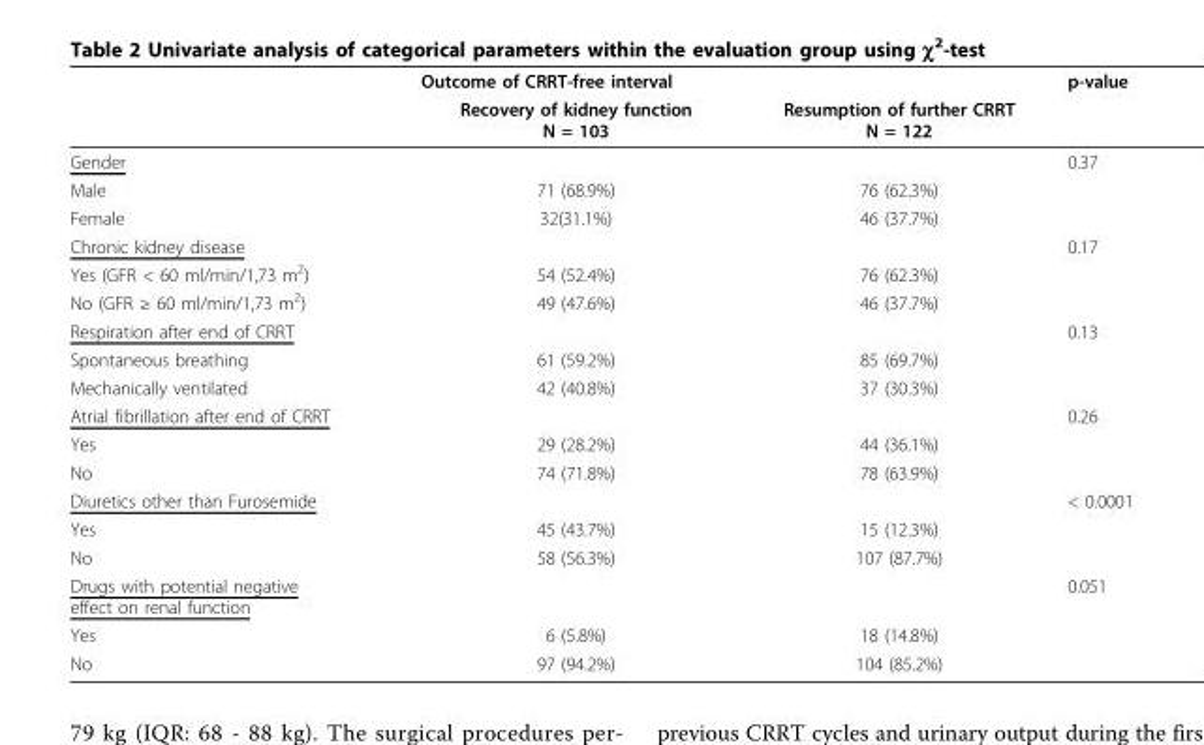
<table><thead><tr><td rowspan="2"></td><td colspan="2">Outcome of CRRT-free interval</td><td rowspan="2">p-value</td></tr><tr><td>Recovery of kidney function N = 103</td><td>Resumption of further CRRT N = 122</td></tr></thead><tbody><tr><td>Gender</td><td></td><td></td><td>0.37</td></tr><tr><td>Male</td><td>71 (68.9%)</td><td>76 (62.3%)</td><td></td></tr><tr><td>Female</td><td>32(31.1%)</td><td>46 (37.7%)</td><td></td></tr><tr><td>Chronic kidney disease</td><td></td><td></td><td>0.17</td></tr><tr><td>Yes (GFR &lt; 60 ml/min/1,73 m<sup>2</sup>)</td><td>54 (52.4%)</td><td>76 (62.3%)</td><td></td></tr><tr><td>No (GFR ≥ 60 ml/min/1,73 m<sup>2</sup>)</td><td>49 (47.6%)</td><td>46 (37.7%)</td><td></td></tr><tr><td>Respiration after end of CRRT</td><td></td><td></td><td>0.13</td></tr><tr><td>Spontaneous breathing</td><td>61 (59.2%)</td><td>85 (69.7%)</td><td></td></tr><tr><td>Mechanically ventilated</td><td>42 (40.8%)</td><td>37 (30.3%)</td><td></td></tr><tr><td>Atrial fibrillation after end of CRRT</td><td></td><td></td><td>0.26</td></tr><tr><td>Yes</td><td>29 (28.2%)</td><td>44 (36.1%)</td><td></td></tr><tr><td>No</td><td>74 (71.8%)</td><td>78 (63.9%)</td><td></td></tr><tr><td>Diuretics other than Furosemide</td><td></td><td></td><td>&lt; 0.0001</td></tr><tr><td>Yes</td><td>45 (43.7%)</td><td>15 (12.3%)</td><td></td></tr><tr><td>No</td><td>58 (56.3%)</td><td>107 (87.7%)</td><td></td></tr><tr><td>Drugs with potential negative effect on renal function</td><td></td><td></td><td>0.051</td></tr><tr><td>Yes</td><td>6 (5.8%)</td><td>18 (14.8%)</td><td></td></tr><tr><td>No</td><td>97 (94.2%)</td><td>104 (85.2%)</td><td></td></tr></tbody></table>